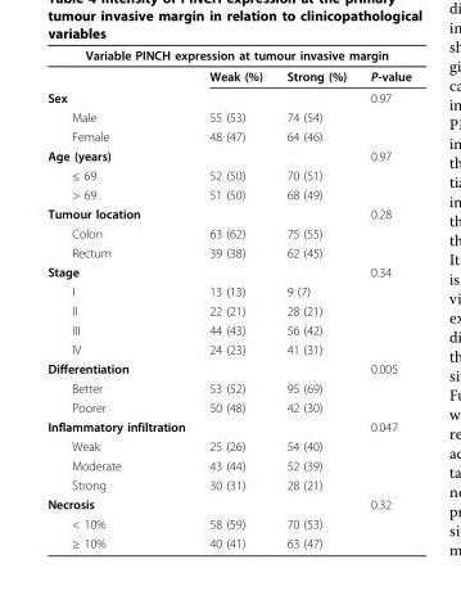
<table><thead><tr><td colspan="4">Variable PINCH expression at tumour invasive margin</td></tr><tr><td></td><td>Weak (%)</td><td>Strong (%)</td><td>P-value</td></tr></thead><tbody><tr><td>Sex</td><td></td><td></td><td>0.97</td></tr><tr><td>Male</td><td>55 (53)</td><td>74 (54)</td><td></td></tr><tr><td>Female</td><td>48 (47)</td><td>64 (46)</td><td></td></tr><tr><td>Age (years)</td><td></td><td></td><td>0.97</td></tr><tr><td>≤ 69</td><td>52 (50)</td><td>70 (51)</td><td></td></tr><tr><td>&gt; 69</td><td>51 (50)</td><td>68 (49)</td><td></td></tr><tr><td>Tumour location</td><td></td><td></td><td>0.28</td></tr><tr><td>Colon</td><td>63 (62)</td><td>75 (55)</td><td></td></tr><tr><td>Rectum</td><td>39 (38)</td><td>62 (45)</td><td></td></tr><tr><td>Stage</td><td></td><td></td><td>0.34</td></tr><tr><td>I</td><td>13 (13)</td><td>9 (7)</td><td></td></tr><tr><td>II</td><td>22 (21)</td><td>28 (21)</td><td></td></tr><tr><td>III</td><td>44 (43)</td><td>56 (42)</td><td></td></tr><tr><td>IV</td><td>24 (23)</td><td>41 (31)</td><td></td></tr><tr><td>Differentiation</td><td></td><td></td><td>0.005</td></tr><tr><td>Better</td><td>53 (52)</td><td>95 (69)</td><td></td></tr><tr><td>Poorer</td><td>50 (48)</td><td>42 (30)</td><td></td></tr><tr><td>Inflammatory infiltration</td><td></td><td></td><td>0.047</td></tr><tr><td>Weak</td><td>25 (26)</td><td>54 (40)</td><td></td></tr><tr><td>Moderate</td><td>43 (44)</td><td>52 (39)</td><td></td></tr><tr><td>Strong</td><td>30 (31)</td><td>28 (21)</td><td></td></tr><tr><td>Necrosis</td><td></td><td></td><td>0.32</td></tr><tr><td>&lt; 10%</td><td>58 (59)</td><td>70 (53)</td><td></td></tr><tr><td>≥ 10%</td><td>40 (41)</td><td>63 (47)</td><td></td></tr></tbody></table>